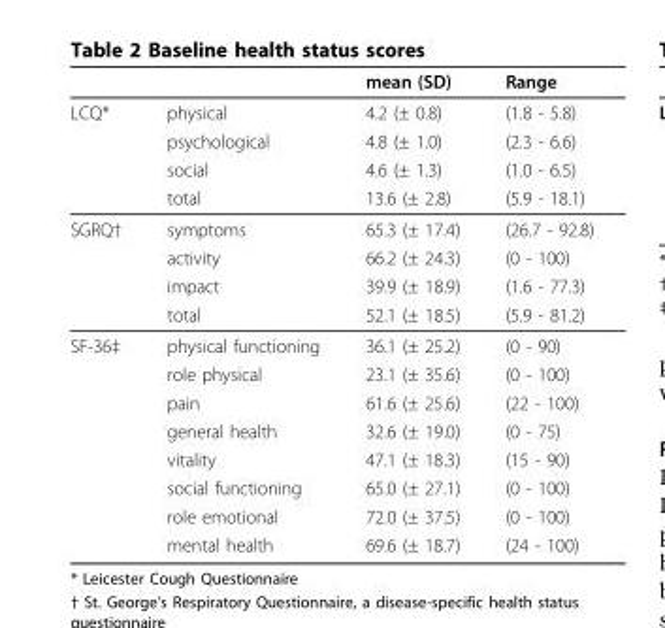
<table><thead><tr><td></td><td></td><td>mean (SD)</td><td>Range</td></tr></thead><tbody><tr><td rowspan="4">LCQ*</td><td>physical</td><td>4.2 (± 0.8)</td><td>(1.8 - 5.8)</td></tr><tr><td>psychological</td><td>4.8 (± 1.0)</td><td>(2.3 - 6.6)</td></tr><tr><td>social</td><td>4.6 (± 1.3)</td><td>(1.0 - 6.5)</td></tr><tr><td>total</td><td>13.6 (± 2.8)</td><td>(5.9 - 18.1)</td></tr><tr><td rowspan="4">SGRQ†</td><td>symptoms</td><td>65.3 (± 17.4)</td><td>(26.7 - 92.8)</td></tr><tr><td>activity</td><td>66.2 (± 24.3)</td><td>(0 - 100)</td></tr><tr><td>impact</td><td>39.9 (± 18.9)</td><td>(1.6 - 77.3)</td></tr><tr><td>total</td><td>52.1 (± 18.5)</td><td>(5.9 - 81.2)</td></tr><tr><td rowspan="8">SF-36‡</td><td>physical functioning</td><td>36.1 (± 25.2)</td><td>(0 - 90)</td></tr><tr><td>role physical</td><td>23.1 (± 35.6)</td><td>(0 - 100)</td></tr><tr><td>pain</td><td>61.6 (± 25.6)</td><td>(22 - 100)</td></tr><tr><td>general health</td><td>32.6 (± 19.0)</td><td>(0 - 75)</td></tr><tr><td>vitality</td><td>47.1 (± 18.3)</td><td>(15 - 90)</td></tr><tr><td>social functioning</td><td>65.0 (± 27.1)</td><td>(0 - 100)</td></tr><tr><td>role emotional</td><td>72.0 (± 37.5)</td><td>(0 - 100)</td></tr><tr><td>mental health</td><td>69.6 (± 18.7)</td><td>(24 - 100)</td></tr></tbody></table>